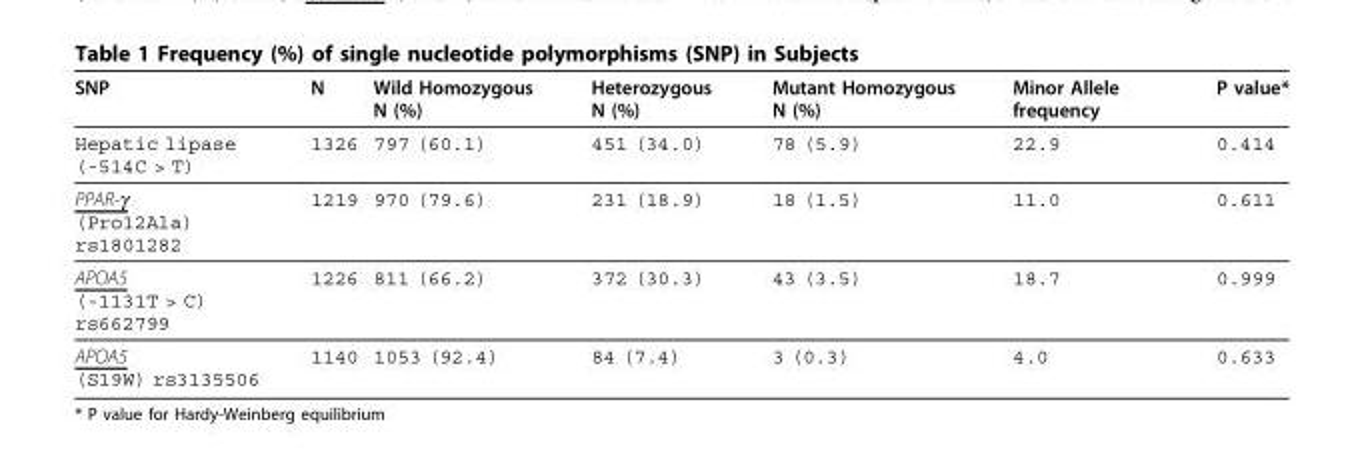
<table><thead><tr><td>SNP</td><td>N</td><td>Wild Homozygous N (%)</td><td>Heterozygous N (%)</td><td>Mutant Homozygous N (%)</td><td>Minor Allele frequency</td><td>P value*</td></tr></thead><tbody><tr><td>Hepatic lipase (-514C &gt; T)</td><td>1326</td><td>797 (60.1)</td><td>451 (34.0)</td><td>78 (5.9)</td><td>22.9</td><td>0.414</td></tr><tr><td>PPAR-γ (Pro12Ala) rs1801282</td><td>1219</td><td>970 (79.6)</td><td>231 (18.9)</td><td>18 (1.5)</td><td>11.0</td><td>0.611</td></tr><tr><td>APOA5 (-1131T &gt; C) rs662799</td><td>1226</td><td>811 (66.2)</td><td>372 (30.3)</td><td>43 (3.5)</td><td>18.7</td><td>0.999</td></tr><tr><td>APOA5 (S19W) rs3135506</td><td>1140</td><td>1053 (92.4)</td><td>84 (7.4)</td><td>3 (0.3)</td><td>4.0</td><td>0.633</td></tr></tbody></table>